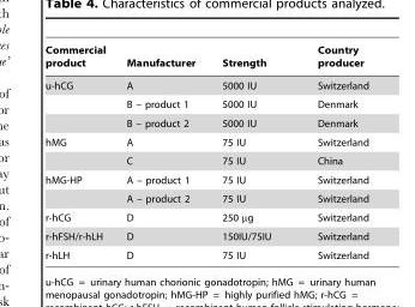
<table><thead><tr><td>Commercial product</td><td>Manufacturer</td><td>Strength</td><td>Country producer</td></tr></thead><tbody><tr><td rowspan="3">u-hCG</td><td>A</td><td>5000 IU</td><td>Switzerland</td></tr><tr><td>B – product 1</td><td>5000 IU</td><td>Denmark</td></tr><tr><td>B – product 2</td><td>5000 IU</td><td>Denmark</td></tr><tr><td rowspan="2">hMG</td><td>A</td><td>75 IU</td><td>Switzerland</td></tr><tr><td>C</td><td>75 IU</td><td>China</td></tr><tr><td rowspan="2">hMG-HP</td><td>A – product 1</td><td>75 IU</td><td>Switzerland</td></tr><tr><td>A – product 2</td><td>75 IU</td><td>Switzerland</td></tr><tr><td>r-hCG</td><td>D</td><td>250 µg</td><td>Switzerland</td></tr><tr><td>r-hFSH/r-hLH</td><td>D</td><td>150IU/75IU</td><td>Switzerland</td></tr><tr><td>r-hLH</td><td>D</td><td>75 IU</td><td>Switzerland</td></tr></tbody></table>